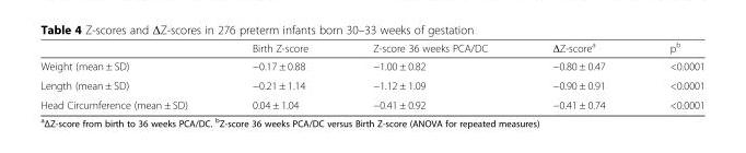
<table><thead><tr><td></td><td>Birth Z-score</td><td>Z-score 36 weeks PCA/DC</td><td>ΔZ-score<sup>a</sup></td><td>p<sup>b</sup></td></tr></thead><tbody><tr><td>Weight (mean ± SD)</td><td>−0.17 ± 0.88</td><td>−1.00 ± 0.82</td><td>−0.80 ± 0.47</td><td>&lt;0.0001</td></tr><tr><td>Length (mean ± SD)</td><td>−0.21 ± 1.14</td><td>−1.12 ± 1.09</td><td>−0.90 ± 0.91</td><td>&lt;0.0001</td></tr><tr><td>Head Circumference (mean ± SD)</td><td>0.04 ± 1.04</td><td>−0.41 ± 0.92</td><td>−0.41 ± 0.74</td><td>&lt;0.0001</td></tr></tbody></table>